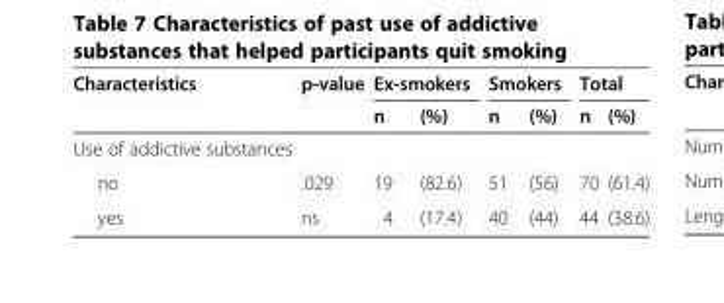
<table><thead><tr><td rowspan="2">Characteristics</td><td rowspan="2">p-value</td><td colspan="2">Ex-smokers</td><td colspan="2">Smokers</td><td colspan="2">Total</td></tr><tr><td>n</td><td>(%)</td><td>n</td><td>(%)</td><td>n</td><td>(%)</td></tr></thead><tbody><tr><td colspan="8">Use of addictive substances</td></tr><tr><td>no</td><td>.029</td><td>19</td><td>(82.6)</td><td>51</td><td>(56)</td><td>70</td><td>(61.4)</td></tr><tr><td>yes</td><td>ns</td><td>4</td><td>(17.4)</td><td>40</td><td>(44)</td><td>44</td><td>(38.6)</td></tr></tbody></table>